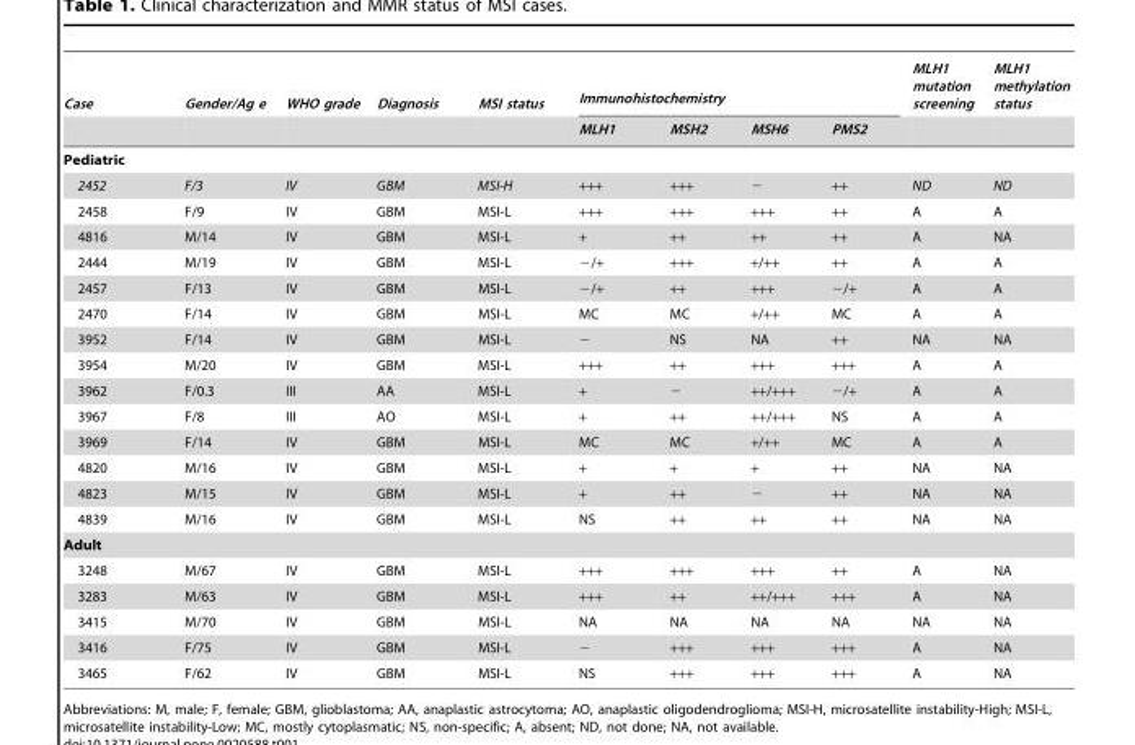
<table><thead><tr><td rowspan="2">Case</td><td rowspan="2">Gender/Ag e</td><td rowspan="2">WHO grade</td><td rowspan="2">Diagnosis</td><td rowspan="2">MSI status</td><td colspan="4">Immunohistochemistry</td><td rowspan="2">MLH1 mutation screening</td><td rowspan="2">MLH1 methylation status</td></tr><tr><td>MLH1</td><td>MSH2</td><td>MSH6</td><td>PMS2</td></tr></thead><tbody><tr><td colspan="11">Pediatric</td></tr><tr><td>2452</td><td>F/3</td><td>IV</td><td>GBM</td><td>MSI-H</td><td>+++</td><td>+++</td><td>−</td><td>++</td><td>ND</td><td>ND</td></tr><tr><td>2458</td><td>F/9</td><td>IV</td><td>GBM</td><td>MSI-L</td><td>+++</td><td>+++</td><td>+++</td><td>++</td><td>A</td><td>A</td></tr><tr><td>4816</td><td>M/14</td><td>IV</td><td>GBM</td><td>MSI-L</td><td>+</td><td>++</td><td>++</td><td>++</td><td>A</td><td>NA</td></tr><tr><td>2444</td><td>M/19</td><td>IV</td><td>GBM</td><td>MSI-L</td><td>−/+</td><td>+++</td><td>+/++</td><td>++</td><td>A</td><td>A</td></tr><tr><td>2457</td><td>F/13</td><td>IV</td><td>GBM</td><td>MSI-L</td><td>−/+</td><td>++</td><td>+++</td><td>−/+</td><td>A</td><td>A</td></tr><tr><td>2470</td><td>F/14</td><td>IV</td><td>GBM</td><td>MSI-L</td><td>MC</td><td>MC</td><td>+/++</td><td>MC</td><td>A</td><td>A</td></tr><tr><td>3952</td><td>F/14</td><td>IV</td><td>GBM</td><td>MSI-L</td><td>−</td><td>NS</td><td>NA</td><td>++</td><td>NA</td><td>NA</td></tr><tr><td>3954</td><td>M/20</td><td>IV</td><td>GBM</td><td>MSI-L</td><td>+++</td><td>++</td><td>+++</td><td>+++</td><td>A</td><td>A</td></tr><tr><td>3962</td><td>F/0.3</td><td>III</td><td>AA</td><td>MSI-L</td><td>+</td><td>−</td><td>++/+++</td><td>−/+</td><td>A</td><td>A</td></tr><tr><td>3967</td><td>F/8</td><td>III</td><td>AO</td><td>MSI-L</td><td>+</td><td>++</td><td>++/+++</td><td>NS</td><td>A</td><td>A</td></tr><tr><td>3969</td><td>F/14</td><td>IV</td><td>GBM</td><td>MSI-L</td><td>MC</td><td>MC</td><td>+/++</td><td>MC</td><td>A</td><td>A</td></tr><tr><td>4820</td><td>M/16</td><td>IV</td><td>GBM</td><td>MSI-L</td><td>+</td><td>+</td><td>+</td><td>++</td><td>NA</td><td>NA</td></tr><tr><td>4823</td><td>M/15</td><td>IV</td><td>GBM</td><td>MSI-L</td><td>+</td><td>++</td><td>−</td><td>++</td><td>NA</td><td>NA</td></tr><tr><td>4839</td><td>M/16</td><td>IV</td><td>GBM</td><td>MSI-L</td><td>NS</td><td>++</td><td>++</td><td>++</td><td>NA</td><td>NA</td></tr><tr><td colspan="11">Adult</td></tr><tr><td>3248</td><td>M/67</td><td>IV</td><td>GBM</td><td>MSI-L</td><td>+++</td><td>+++</td><td>+++</td><td>++</td><td>A</td><td>NA</td></tr><tr><td>3283</td><td>M/63</td><td>IV</td><td>GBM</td><td>MSI-L</td><td>+++</td><td>++</td><td>++/+++</td><td>+++</td><td>A</td><td>NA</td></tr><tr><td>3415</td><td>M/70</td><td>IV</td><td>GBM</td><td>MSI-L</td><td>NA</td><td>NA</td><td>NA</td><td>NA</td><td>NA</td><td>NA</td></tr><tr><td>3416</td><td>F/75</td><td>IV</td><td>GBM</td><td>MSI-L</td><td>−</td><td>+++</td><td>+++</td><td>+++</td><td>A</td><td>NA</td></tr><tr><td>3465</td><td>F/62</td><td>IV</td><td>GBM</td><td>MSI-L</td><td>NS</td><td>+++</td><td>+++</td><td>+++</td><td>A</td><td>NA</td></tr></tbody></table>